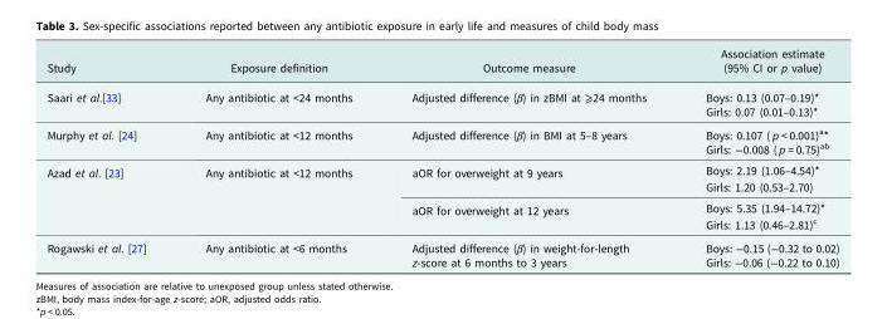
<table><thead><tr><td>Study</td><td>Exposure definition</td><td>Outcome measure</td><td>Association estimate (95% CI or p value)</td></tr></thead><tbody><tr><td>Saari et al.[33]</td><td>Any antibiotic at &lt;24 months</td><td>Adjusted difference (β) in zBMI at ⩾24 months</td><td>Boys: 0.13 (0.07–0.19)* Girls: 0.07 (0.01–0.13)*</td></tr><tr><td>Murphy et al. [24]</td><td>Any antibiotic at &lt;12 months</td><td>Adjusted difference (β) in BMI at 5–8 years</td><td>Boys: 0.107 ( p &lt; 0.001)<sup>a</sup>* Girls: −0.008 ( p = 0.75)<sup>ab</sup></td></tr><tr><td rowspan="4">Azad et al. [23]</td><td rowspan="4">Any antibiotic at &lt;12 months</td><td rowspan="2">aOR for overweight at 9 years</td><td>Boys: 2.19 (1.06–4.54)*</td></tr><tr><td>Girls: 1.20 (0.53–2.70)</td></tr><tr><td rowspan="2">aOR for overweight at 12 years</td><td>Boys: 5.35 (1.94–14.72)*</td></tr><tr><td>Girls: 1.13 (0.46–2.81)<sup>c</sup></td></tr><tr><td>Rogawski et al. [27]</td><td>Any antibiotic at &lt;6 months</td><td>Adjusted difference (β) in weight-for-length z-score at 6 months to 3 years</td><td>Boys: −0.15 (−0.32 to 0.02) Girls: −0.06 (−0.22 to 0.10)</td></tr></tbody></table>